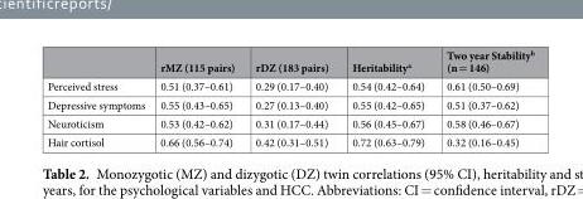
<table><thead><tr><td></td><td>rMZ (115 pairs)</td><td>rDZ (183 pairs)</td><td>Heritability<sup>a</sup></td><td>Two year Stability<sup>b</sup> (n = 146)</td></tr></thead><tbody><tr><td>Perceived stress</td><td>0.51 (0.37–0.61)</td><td>0.29 (0.17–0.40)</td><td>0.54 (0.42–0.64)</td><td>0.61 (0.50–0.69)</td></tr><tr><td>Depressive symptoms</td><td>0.55 (0.43–0.65)</td><td>0.27 (0.13–0.40)</td><td>0.55 (0.42–0.65)</td><td>0.51 (0.37–0.62)</td></tr><tr><td>Neuroticism</td><td>0.53 (0.42–0.62)</td><td>0.31 (0.17–0.44)</td><td>0.56 (0.45–0.67)</td><td>0.58 (0.46–0.67)</td></tr><tr><td>Hair cortisol</td><td>0.66 (0.56–0.74)</td><td>0.42 (0.31–0.51)</td><td>0.72 (0.63–0.79)</td><td>0.32 (0.16–0.45)</td></tr></tbody></table>